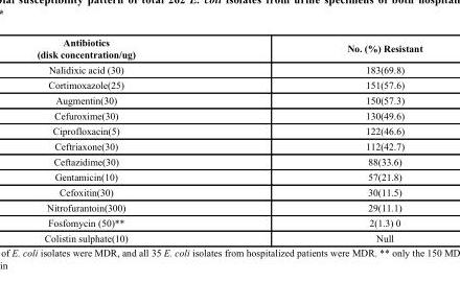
<table><thead><tr><td>Antibiotics (disk concentration/ug)</td><td>No. (%) Resistant</td></tr></thead><tbody><tr><td>Nalidixic acid (30)</td><td>183(69.8)</td></tr><tr><td>Cortimoxazole(25)</td><td>151(57.6)</td></tr><tr><td>Augmentin(30)</td><td>150(57.3)</td></tr><tr><td>Cefuroxime(30)</td><td>130(49.6)</td></tr><tr><td>Ciprofloxacin(5)</td><td>122(46.6)</td></tr><tr><td>Ceftriaxone(30)</td><td>112(42.7)</td></tr><tr><td>Ceftazidime(30)</td><td>88(33.6)</td></tr><tr><td>Gentamicin(10)</td><td>57(21.8)</td></tr><tr><td>Cefoxitin(30)</td><td>30(11.5)</td></tr><tr><td>Nitrofurantoin(300)</td><td>29(11.1)</td></tr><tr><td>Fosfomycin (50)**</td><td>2(1.3) 0</td></tr><tr><td>Colistin sulphate(10)</td><td>Null</td></tr></tbody></table>